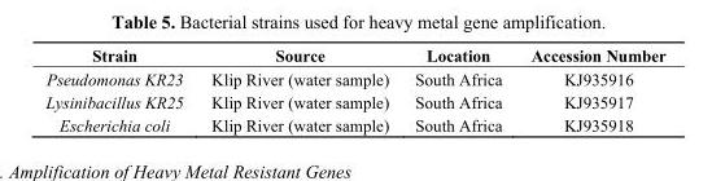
<table><thead><tr><td>Strain</td><td>Source</td><td>Location</td><td>Accession Number</td></tr></thead><tbody><tr><td>Pseudomonas KR23</td><td>Klip River (water sample)</td><td>South Africa</td><td>KJ935916</td></tr><tr><td>Lysinibacillus KR25</td><td>Klip River (water sample)</td><td>South Africa</td><td>KJ935917</td></tr><tr><td>Escherichia coli</td><td>Klip River (water sample)</td><td>South Africa</td><td>KJ935918</td></tr></tbody></table>